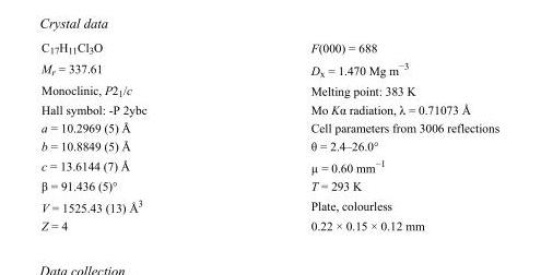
<table><tbody><tr><td>C<sub>17</sub>H<sub>11</sub>Cl<sub>3</sub>O</td><td>F(000) = 688</td></tr><tr><td>M<sub>r</sub> = 337.61</td><td>D<sub>x</sub> = 1.470 Mg m<sup>−3</sup></td></tr><tr><td>Monoclinic, P2<sub>1</sub>/c</td><td>Melting point: 383 K</td></tr><tr><td>Hall symbol: -P 2ybc</td><td>Mo Kα radiation, λ = 0.71073 Å</td></tr><tr><td>a = 10.2969 (5) Å</td><td>Cell parameters from 3006 reflections</td></tr><tr><td>b = 10.8849 (5) Å</td><td>θ = 2.4–26.0°</td></tr><tr><td>c = 13.6144 (7) Å</td><td>µ = 0.60 mm<sup>−1</sup></td></tr><tr><td>β = 91.436 (5)°</td><td>T = 293 K</td></tr><tr><td>V = 1525.43 (13) Å<sup>3</sup></td><td>Plate, colourless</td></tr><tr><td>Z = 4</td><td>0.22 × 0.15 × 0.12 mm</td></tr></tbody></table>